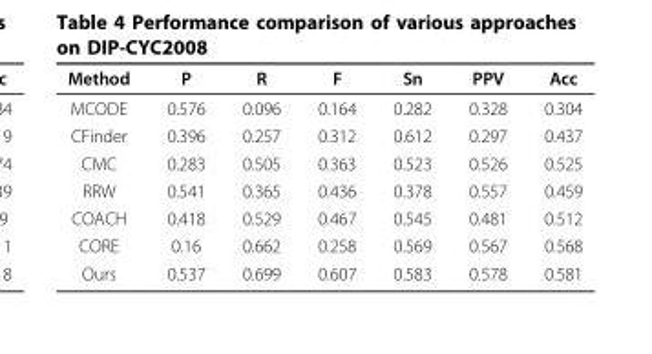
<table><thead><tr><td>Method</td><td>P</td><td>R</td><td>F</td><td>Sn</td><td>PPV</td><td>Acc</td></tr></thead><tbody><tr><td>MCODE</td><td>0.576</td><td>0.096</td><td>0.164</td><td>0.282</td><td>0.328</td><td>0.304</td></tr><tr><td>CFinder</td><td>0.396</td><td>0.257</td><td>0.312</td><td>0.612</td><td>0.297</td><td>0.437</td></tr><tr><td>CMC</td><td>0.283</td><td>0.505</td><td>0.363</td><td>0.523</td><td>0.526</td><td>0.525</td></tr><tr><td>RRW</td><td>0.541</td><td>0.365</td><td>0.436</td><td>0.378</td><td>0.557</td><td>0.459</td></tr><tr><td>COACH</td><td>0.418</td><td>0.529</td><td>0.467</td><td>0.545</td><td>0.481</td><td>0.512</td></tr><tr><td>CORE</td><td>0.16</td><td>0.662</td><td>0.258</td><td>0.569</td><td>0.567</td><td>0.568</td></tr><tr><td>Ours</td><td>0.537</td><td>0.699</td><td>0.607</td><td>0.583</td><td>0.578</td><td>0.581</td></tr></tbody></table>